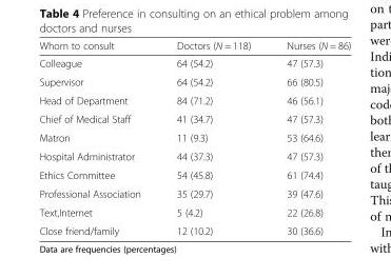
<table><thead><tr><td>Whom to consult</td><td>Doctors (N = 118)</td><td>Nurses (N = 86)</td></tr></thead><tbody><tr><td>Colleague</td><td>64 (54.2)</td><td>47 (57.3)</td></tr><tr><td>Supervisor</td><td>64 (54.2)</td><td>66 (80.5)</td></tr><tr><td>Head of Department</td><td>84 (71.2)</td><td>46 (56.1)</td></tr><tr><td>Chief of Medical Staff</td><td>41 (34.7)</td><td>47 (57.3)</td></tr><tr><td>Matron</td><td>11 (9.3)</td><td>53 (64.6)</td></tr><tr><td>Hospital Administrator</td><td>44 (37.3)</td><td>47 (57.3)</td></tr><tr><td>Ethics Committee</td><td>54 (45.8)</td><td>61 (74.4)</td></tr><tr><td>Professional Association</td><td>35 (29.7)</td><td>39 (47.6)</td></tr><tr><td>Text,Internet</td><td>5 (4.2)</td><td>22 (26.8)</td></tr><tr><td>Close friend/family</td><td>12 (10.2)</td><td>30 (36.6)</td></tr></tbody></table>